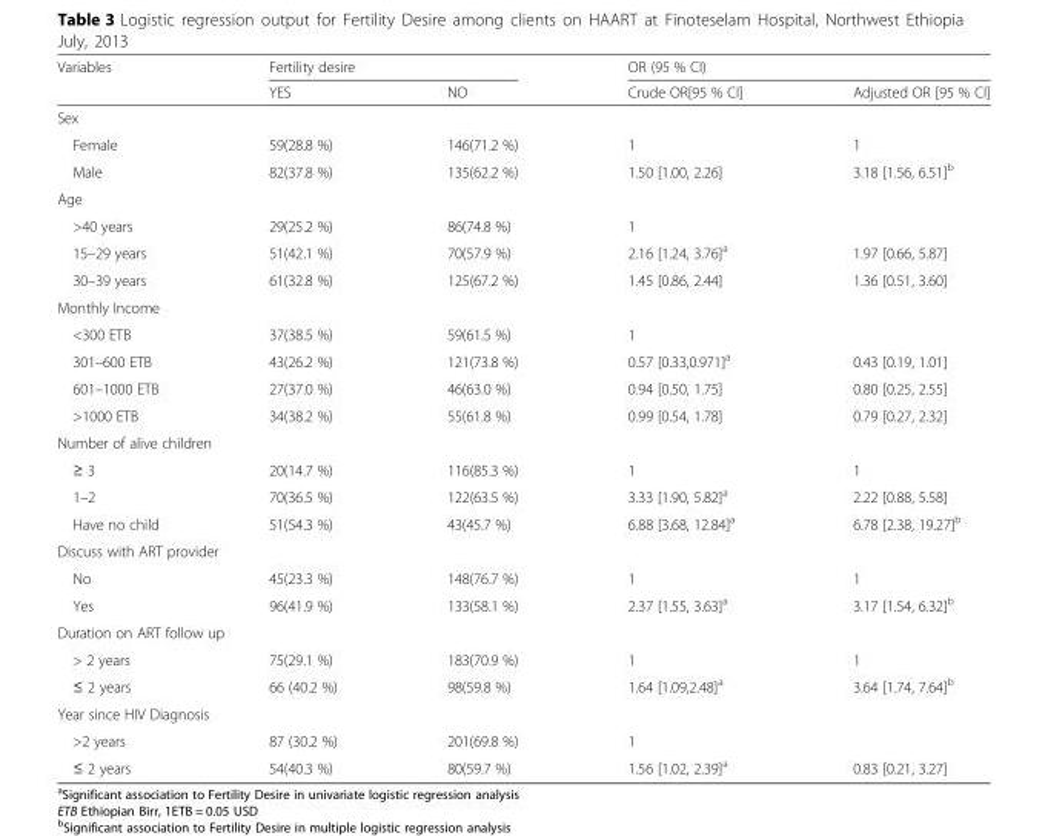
<table><thead><tr><td rowspan="2">Variables</td><td colspan="2">Fertility desire</td><td colspan="2">OR (95 % CI)</td></tr><tr><td>YES</td><td>NO</td><td>Crude OR[95 % CI]</td><td>Adjusted OR [95 % CI]</td></tr></thead><tbody><tr><td colspan="5">Sex</td></tr><tr><td>Female</td><td>59(28.8 %)</td><td>146(71.2 %)</td><td>1</td><td>1</td></tr><tr><td>Male</td><td>82(37.8 %)</td><td>135(62.2 %)</td><td>1.50 [1.00, 2.26]</td><td>3.18 [1.56, 6.51]<sup>b</sup></td></tr><tr><td colspan="5">Age</td></tr><tr><td>&gt;40 years</td><td>29(25.2 %)</td><td>86(74.8 %)</td><td>1</td><td></td></tr><tr><td>15–29 years</td><td>51(42.1 %)</td><td>70(57.9 %)</td><td>2.16 [1.24, 3.76]<sup>a</sup></td><td>1.97 [0.66, 5.87]</td></tr><tr><td>30–39 years</td><td>61(32.8 %)</td><td>125(67.2 %)</td><td>1.45 [0.86, 2.44]</td><td>1.36 [0.51, 3.60]</td></tr><tr><td colspan="5">Monthly Income</td></tr><tr><td>&lt;300 ETB</td><td>37(38.5 %)</td><td>59(61.5 %)</td><td>1</td><td></td></tr><tr><td>301–600 ETB</td><td>43(26.2 %)</td><td>121(73.8 %)</td><td>0.57 [0.33,0.971]<sup>a</sup></td><td>0.43 [0.19, 1.01]</td></tr><tr><td>601–1000 ETB</td><td>27(37.0 %)</td><td>46(63.0 %)</td><td>0.94 [0.50, 1.75]</td><td>0.80 [0.25, 2.55]</td></tr><tr><td>&gt;1000 ETB</td><td>34(38.2 %)</td><td>55(61.8 %)</td><td>0.99 [0.54, 1.78]</td><td>0.79 [0.27, 2.32]</td></tr><tr><td colspan="5">Number of alive children</td></tr><tr><td>≥ 3</td><td>20(14.7 %)</td><td>116(85.3 %)</td><td>1</td><td>1</td></tr><tr><td>1–2</td><td>70(36.5 %)</td><td>122(63.5 %)</td><td>3.33 [1.90, 5.82]<sup>a</sup></td><td>2.22 [0.88, 5.58]</td></tr><tr><td>Have no child</td><td>51(54.3 %)</td><td>43(45.7 %)</td><td>6.88 [3.68, 12.84]<sup>a</sup></td><td>6.78 [2.38, 19.27]<sup>b</sup></td></tr><tr><td colspan="5">Discuss with ART provider</td></tr><tr><td>No</td><td>45(23.3 %)</td><td>148(76.7 %)</td><td>1</td><td>1</td></tr><tr><td>Yes</td><td>96(41.9 %)</td><td>133(58.1 %)</td><td>2.37 [1.55, 3.63]<sup>a</sup></td><td>3.17 [1.54, 6.32]<sup>b</sup></td></tr><tr><td colspan="5">Duration on ART follow up</td></tr><tr><td>&gt; 2 years</td><td>75(29.1 %)</td><td>183(70.9 %)</td><td>1</td><td>1</td></tr><tr><td>≤ 2 years</td><td>66 (40.2 %)</td><td>98(59.8 %)</td><td>1.64 [1.09,2.48]<sup>a</sup></td><td>3.64 [1.74, 7.64]<sup>b</sup></td></tr><tr><td colspan="5">Year since HIV Diagnosis</td></tr><tr><td>&gt;2 years</td><td>87 (30.2 %)</td><td>201(69.8 %)</td><td>1</td><td></td></tr><tr><td>≤ 2 years</td><td>54(40.3 %)</td><td>80(59.7 %)</td><td>1.56 [1.02, 2.39]<sup>a</sup></td><td>0.83 [0.21, 3.27]</td></tr></tbody></table>